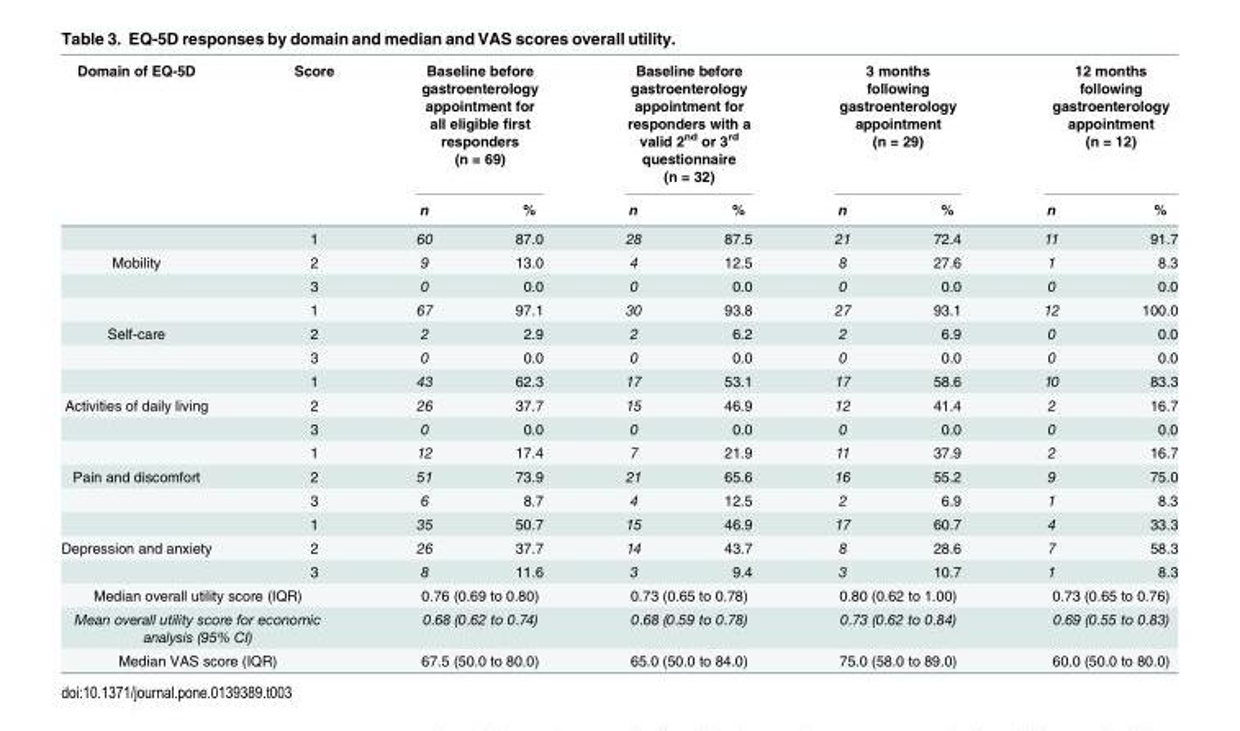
<table><thead><tr><td rowspan="2">Domain of EQ-5D</td><td rowspan="2">Score</td><td colspan="2">Baseline before gastroenterology appointment for all eligible first responders (n = 69)</td><td colspan="2">Baseline before gastroenterology appointment for responders with a valid 2<sup>nd</sup> or 3<sup>rd</sup> questionnaire (n = 32)</td><td colspan="2">3 months following gastroenterology appointment (n = 29)</td><td colspan="2">12 months following gastroenterology appointment (n = 12)</td></tr><tr><td>n</td><td>%</td><td>n</td><td>%</td><td>n</td><td>%</td><td>n</td><td>%</td></tr></thead><tbody><tr><td></td><td>1</td><td>60</td><td>87.0</td><td>28</td><td>87.5</td><td>21</td><td>72.4</td><td>11</td><td>91.7</td></tr><tr><td rowspan="3">Mobility</td><td>2</td><td>9</td><td>13.0</td><td>4</td><td>12.5</td><td>8</td><td>27.6</td><td>1</td><td>8.3</td></tr><tr><td>3</td><td>0</td><td>0.0</td><td>0</td><td>0.0</td><td>0</td><td>0.0</td><td>0</td><td>0.0</td></tr><tr><td>1</td><td>67</td><td>97.1</td><td>30</td><td>93.8</td><td>27</td><td>93.1</td><td>12</td><td>100.0</td></tr><tr><td rowspan="3">Self-care</td><td>2</td><td>2</td><td>2.9</td><td>2</td><td>6.2</td><td>2</td><td>6.9</td><td>0</td><td>0.0</td></tr><tr><td>3</td><td>0</td><td>0.0</td><td>0</td><td>0.0</td><td>0</td><td>0.0</td><td>0</td><td>0.0</td></tr><tr><td>1</td><td>43</td><td>62.3</td><td>17</td><td>53.1</td><td>17</td><td>58.6</td><td>10</td><td>83.3</td></tr><tr><td rowspan="3">Activities of daily living</td><td>2</td><td>26</td><td>37.7</td><td>15</td><td>46.9</td><td>12</td><td>41.4</td><td>2</td><td>16.7</td></tr><tr><td>3</td><td>0</td><td>0.0</td><td>0</td><td>0.0</td><td>0</td><td>0.0</td><td>0</td><td>0.0</td></tr><tr><td>1</td><td>12</td><td>17.4</td><td>7</td><td>21.9</td><td>11</td><td>37.9</td><td>2</td><td>16.7</td></tr><tr><td rowspan="3">Pain and discomfort</td><td>2</td><td>51</td><td>73.9</td><td>21</td><td>65.6</td><td>16</td><td>55.2</td><td>9</td><td>75.0</td></tr><tr><td>3</td><td>6</td><td>8.7</td><td>4</td><td>12.5</td><td>2</td><td>6.9</td><td>1</td><td>8.3</td></tr><tr><td>1</td><td>35</td><td>50.7</td><td>15</td><td>46.9</td><td>17</td><td>60.7</td><td>4</td><td>33.3</td></tr><tr><td rowspan="2">Depression and anxiety</td><td>2</td><td>26</td><td>37.7</td><td>14</td><td>43.7</td><td>8</td><td>28.6</td><td>7</td><td>58.3</td></tr><tr><td>3</td><td>8</td><td>11.6</td><td>3</td><td>9.4</td><td>3</td><td>10.7</td><td>1</td><td>8.3</td></tr><tr><td colspan="2">Median overall utility score (IQR)</td><td colspan="2">0.76 (0.69 to 0.80)</td><td colspan="2">0.73 (0.65 to 0.78)</td><td colspan="2">0.80 (0.62 to 1.00)</td><td colspan="2">0.73 (0.65 to 0.76)</td></tr><tr><td colspan="2">Mean overall utility score for economic analysis (95% CI)</td><td colspan="2">0.68 (0.62 to 0.74)</td><td colspan="2">0.68 (0.59 to 0.78)</td><td colspan="2">0.73 (0.62 to 0.84)</td><td colspan="2">0.69 (0.55 to 0.83)</td></tr><tr><td colspan="2">Median VAS score (IQR)</td><td colspan="2">67.5 (50.0 to 80.0)</td><td colspan="2">65.0 (50.0 to 84.0)</td><td colspan="2">75.0 (58.0 to 89.0)</td><td colspan="2">60.0 (50.0 to 80.0)</td></tr></tbody></table>